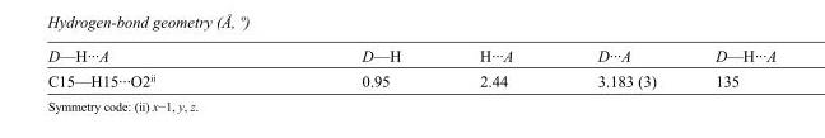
<table><tbody><tr><td>D—H···A</td><td>D—H</td><td>H···A</td><td>D···A</td><td>D—H···A</td></tr><tr><td>C15—H15···O2<sup>ii</sup></td><td>0.95</td><td>2.44</td><td>3.183 (3)</td><td>135</td></tr></tbody></table>